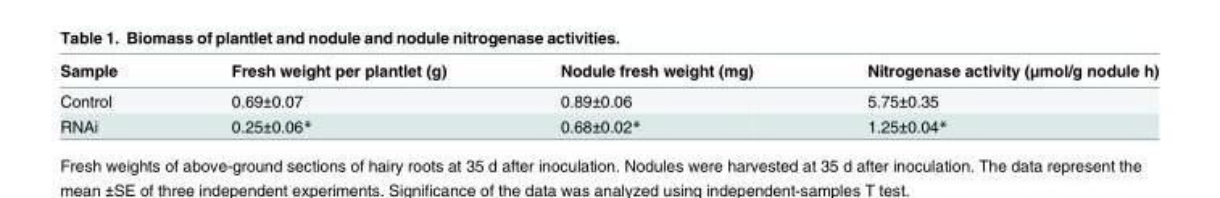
<table><thead><tr><td>Sample</td><td>Fresh weight per plantlet (g)</td><td>Nodule fresh weight (mg)</td><td>Nitrogenase activity (μmol/g nodule h)</td></tr></thead><tbody><tr><td>Control</td><td>0.69±0.07</td><td>0.89±0.06</td><td>5.75±0.35</td></tr><tr><td>RNAi</td><td>0.25±0.06*</td><td>0.68±0.02*</td><td>1.25±0.04*</td></tr></tbody></table>